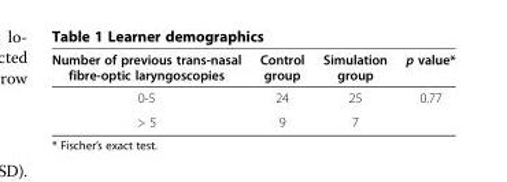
<table><thead><tr><td>Number of previous trans-nasal fibre-optic laryngoscopies</td><td>Control group</td><td>Simulation group</td><td>p value*</td></tr></thead><tbody><tr><td>0-5</td><td>24</td><td>25</td><td>0.77</td></tr><tr><td>&gt; 5</td><td>9</td><td>7</td><td></td></tr></tbody></table>